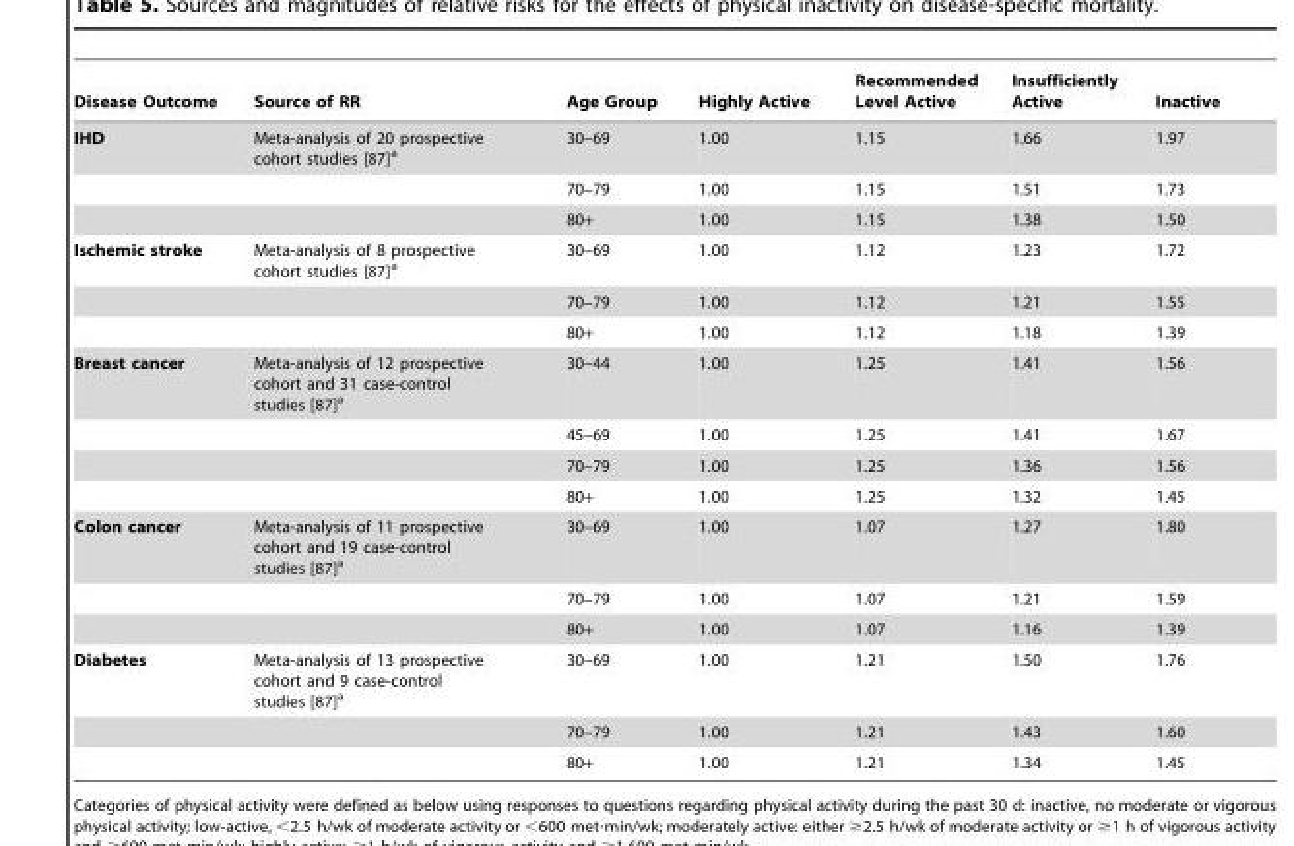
<table><thead><tr><td>Disease Outcome</td><td>Source of RR</td><td>Age Group</td><td>Highly Active</td><td>Recommended Level Active</td><td>Insufficiently Active</td><td>Inactive</td></tr></thead><tbody><tr><td rowspan="3">IHD</td><td>Meta-analysis of 20 prospective cohort studies [87]a</td><td>30–69</td><td>1.00</td><td>1.15</td><td>1.66</td><td>1.97</td></tr><tr><td></td><td>70–79</td><td>1.00</td><td>1.15</td><td>1.51</td><td>1.73</td></tr><tr><td></td><td>80+</td><td>1.00</td><td>1.15</td><td>1.38</td><td>1.50</td></tr><tr><td rowspan="3">Ischemic stroke</td><td>Meta-analysis of 8 prospective cohort studies [87]a</td><td>30–69</td><td>1.00</td><td>1.12</td><td>1.23</td><td>1.72</td></tr><tr><td></td><td>70–79</td><td>1.00</td><td>1.12</td><td>1.21</td><td>1.55</td></tr><tr><td></td><td>80+</td><td>1.00</td><td>1.12</td><td>1.18</td><td>1.39</td></tr><tr><td rowspan="4">Breast cancer</td><td>Meta-analysis of 12 prospective cohort and 31 case-control studies [87]a</td><td>30–44</td><td>1.00</td><td>1.25</td><td>1.41</td><td>1.56</td></tr><tr><td></td><td>45–69</td><td>1.00</td><td>1.25</td><td>1.41</td><td>1.67</td></tr><tr><td></td><td>70–79</td><td>1.00</td><td>1.25</td><td>1.36</td><td>1.56</td></tr><tr><td></td><td>80+</td><td>1.00</td><td>1.25</td><td>1.32</td><td>1.45</td></tr><tr><td rowspan="3">Colon cancer</td><td>Meta-analysis of 11 prospective cohort and 19 case-control studies [87]a</td><td>30–69</td><td>1.00</td><td>1.07</td><td>1.27</td><td>1.80</td></tr><tr><td></td><td>70–79</td><td>1.00</td><td>1.07</td><td>1.21</td><td>1.59</td></tr><tr><td></td><td>80+</td><td>1.00</td><td>1.07</td><td>1.16</td><td>1.39</td></tr><tr><td rowspan="3">Diabetes</td><td>Meta-analysis of 13 prospective cohort and 9 case-control studies [87]a</td><td>30–69</td><td>1.00</td><td>1.21</td><td>1.50</td><td>1.76</td></tr><tr><td></td><td>70–79</td><td>1.00</td><td>1.21</td><td>1.43</td><td>1.60</td></tr><tr><td></td><td>80+</td><td>1.00</td><td>1.21</td><td>1.34</td><td>1.45</td></tr></tbody></table>